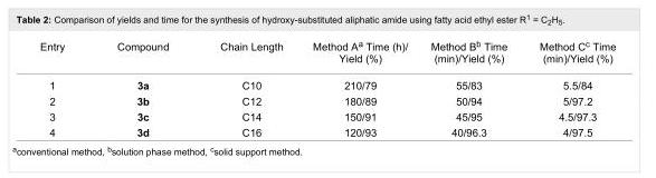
<table><tbody><tr><td>Entry</td><td>Compound</td><td>Chain Length</td><td>Method A<sup>a</sup> Time (h)/ Yield (%)</td><td>Method B<sup>b</sup> Time (min)/Yield (%)</td><td>Method C<sup>c</sup> Time (min)/Yield (%)</td></tr><tr><td>1</td><td>3a</td><td>C10</td><td>210/79</td><td>55/83</td><td>5.5/84</td></tr><tr><td>2</td><td>3b</td><td>C12</td><td>180/89</td><td>50/94</td><td>5/97.2</td></tr><tr><td>3</td><td>3c</td><td>C14</td><td>150/91</td><td>45/95</td><td>4.5/97.3</td></tr><tr><td>4</td><td>3d</td><td>C16</td><td>120/93</td><td>40/96.3</td><td>4/97.5</td></tr></tbody></table>